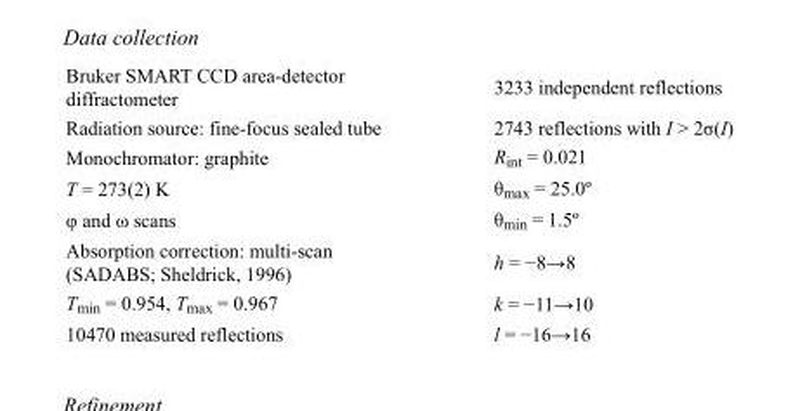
<table><tbody><tr><td>Bruker SMART CCD area-detector diffractometer</td><td>3233 independent reflections</td></tr><tr><td>Radiation source: fine-focus sealed tube</td><td>2743 reflections with I &gt; 2σ(I)</td></tr><tr><td>Monochromator: graphite</td><td>R<sub>int</sub> = 0.021</td></tr><tr><td>T = 273(2) K</td><td>θ<sub>max</sub> = 25.0º</td></tr><tr><td>φ and ω scans</td><td>θ<sub>min</sub> = 1.5º</td></tr><tr><td>Absorption correction: multi-scan (SADABS; Sheldrick, 1996)</td><td>h = −8→8</td></tr><tr><td>T<sub>min</sub> = 0.954, T<sub>max</sub> = 0.967</td><td>k = −11→10</td></tr><tr><td>10470 measured reflections</td><td>l = −16→16</td></tr></tbody></table>